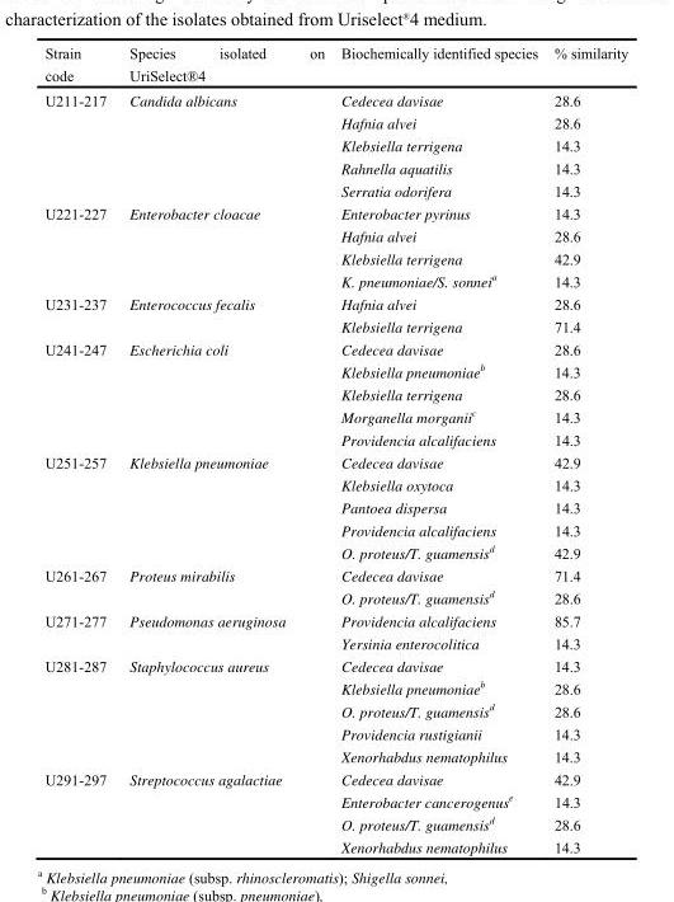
<table><thead><tr><td>Strain code</td><td>Species isolated on UriSelect®4</td><td>Biochemically identified species</td><td>% similarity</td></tr></thead><tbody><tr><td rowspan="5">U211-217</td><td rowspan="5">Candida albicans</td><td>Cedecea davisae</td><td>28.6</td></tr><tr><td>Hafnia alvei</td><td>28.6</td></tr><tr><td>Klebsiella terrigena</td><td>14.3</td></tr><tr><td>Rahnella aquatilis</td><td>14.3</td></tr><tr><td>Serratia odorifera</td><td>14.3</td></tr><tr><td rowspan="4">U221-227</td><td rowspan="4">Enterobacter cloacae</td><td>Enterobacter pyrinus</td><td>14.3</td></tr><tr><td>Hafnia alvei</td><td>28.6</td></tr><tr><td>Klebsiella terrigena</td><td>42.9</td></tr><tr><td>K. pneumoniae/S. sonnei<sup>a</sup></td><td>14.3</td></tr><tr><td rowspan="2">U231-237</td><td rowspan="2">Enterococcus fecalis</td><td>Hafnia alvei</td><td>28.6</td></tr><tr><td>Klebsiella terrigena</td><td>71.4</td></tr><tr><td rowspan="5">U241-247</td><td rowspan="5">Escherichia coli</td><td>Cedecea davisae</td><td>28.6</td></tr><tr><td>Klebsiella pneumoniae<sup>b</sup></td><td>14.3</td></tr><tr><td>Klebsiella terrigena</td><td>28.6</td></tr><tr><td>Morganella morganii<sup>c</sup></td><td>14.3</td></tr><tr><td>Providencia alcalifaciens</td><td>14.3</td></tr><tr><td rowspan="5">U251-257</td><td rowspan="5">Klebsiella pneumoniae</td><td>Cedecea davisae</td><td>42.9</td></tr><tr><td>Klebsiella oxytoca</td><td>14.3</td></tr><tr><td>Pantoea dispersa</td><td>14.3</td></tr><tr><td>Providencia alcalifaciens</td><td>14.3</td></tr><tr><td>O. proteus/T. guamensis<sup>d</sup></td><td>42.9</td></tr><tr><td rowspan="2">U261-267</td><td rowspan="2">Proteus mirabilis</td><td>Cedecea davisae</td><td>71.4</td></tr><tr><td>O. proteus/T. guamensis<sup>d</sup></td><td>28.6</td></tr><tr><td rowspan="2">U271-277</td><td rowspan="2">Pseudomonas aeruginosa</td><td>Providencia alcalifaciens</td><td>85.7</td></tr><tr><td>Yersinia enterocolitica</td><td>14.3</td></tr><tr><td rowspan="5">U281-287</td><td rowspan="5">Staphylococcus aureus</td><td>Cedecea davisae</td><td>14.3</td></tr><tr><td>Klebsiella pneumoniae<sup>b</sup></td><td>28.6</td></tr><tr><td>O. proteus/T. guamensis<sup>d</sup></td><td>28.6</td></tr><tr><td>Providencia rustigianii</td><td>14.3</td></tr><tr><td>Xenorhabdus nematophilus</td><td>14.3</td></tr><tr><td rowspan="4">U291-297</td><td rowspan="4">Streptococcus agalactiae</td><td>Cedecea davisae</td><td>42.9</td></tr><tr><td>Enterobacter cancerogenus<sup>e</sup></td><td>14.3</td></tr><tr><td>O. proteus/T. guamensis<sup>d</sup></td><td>28.6</td></tr><tr><td>Xenorhabdus nematophilus</td><td>14.3</td></tr></tbody></table>